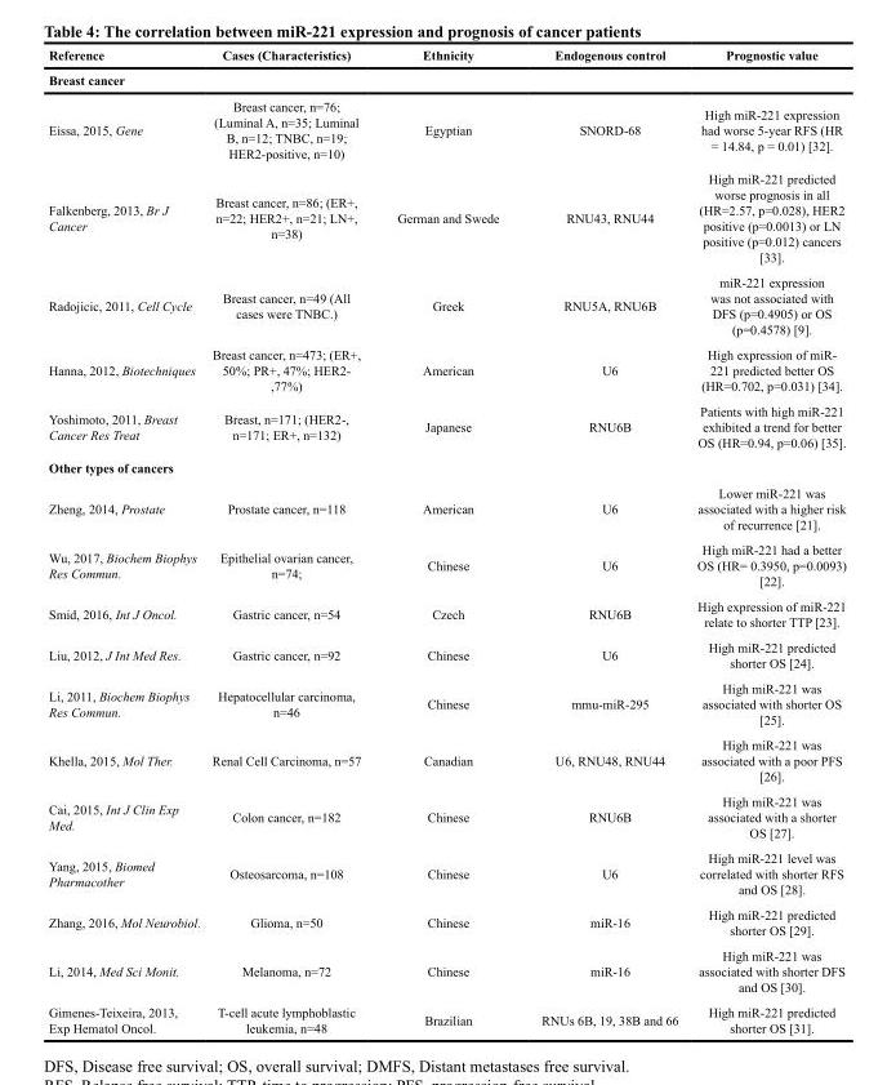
<table><thead><tr><td rowspan="2">Reference Breast cancer</td><td rowspan="2">Cases (Characteristics)</td><td rowspan="2">Ethnicity</td><td rowspan="2">Endogenous control</td><td rowspan="2">Prognostic value</td></tr><tr></tr></thead><tbody><tr><td>Eissa, 2015, Gene</td><td>Breast cancer, n=76; (Luminal A, n=35; Luminal B, n=12; TNBC, n=19; HER2-positive, n=10)</td><td>Egyptian</td><td>SNORD-68</td><td>High miR-221 expression had worse 5-year RFS (HR = 14.84, p = 0.01) [32].</td></tr><tr><td>Falkenberg, 2013, Br J Cancer</td><td>Breast cancer, n=86; (ER+, n=22; HER2+, n=21; LN+, n=38)</td><td>German and Swede</td><td>RNU43, RNU44</td><td>High miR-221 predicted worse prognosis in all (HR=2.57, p=0.028), HER2 positive (p=0.0013) or LN positive (p=0.012) cancers [33].</td></tr><tr><td>Radojicic, 2011, Cell Cycle</td><td>Breast cancer, n=49 (All cases were TNBC.)</td><td>Greek</td><td>RNU5A, RNU6B</td><td>miR-221 expression was not associated with DFS (p=0.4905) or OS (p=0.4578) [9].</td></tr><tr><td>Hanna, 2012, Biotechniques</td><td>Breast cancer, n=473; (ER+, 50%; PR+, 47%; HER2- ,77%)</td><td>American</td><td>U6</td><td>High expression of miR- 221 predicted better OS (HR=0.702, p=0.031) [34].</td></tr><tr><td>Yoshimoto, 2011, Breast Cancer Res Treat</td><td>Breast, n=171; (HER2-, n=171; ER+, n=132)</td><td>Japanese</td><td>RNU6B</td><td>Patients with high miR-221 exhibited a trend for better OS (HR=0.94, p=0.06) [35].</td></tr><tr><td colspan="5">Other types of cancers</td></tr><tr><td>Zheng, 2014, Prostate</td><td>Prostate cancer, n=118</td><td>American</td><td>U6</td><td>Lower miR-221 was associated with a higher risk of recurrence [21].</td></tr><tr><td>Wu, 2017, Biochem Biophys Res Commun.</td><td>Epithelial ovarian cancer, n=74;</td><td>Chinese</td><td>U6</td><td>High miR-221 had a better OS (HR= 0.3950, p=0.0093) [22].</td></tr><tr><td>Smid, 2016, Int J Oncol.</td><td>Gastric cancer, n=54</td><td>Czech</td><td>RNU6B</td><td>High expression of miR-221 relate to shorter TTP [23].</td></tr><tr><td>Liu, 2012, J Int Med Res.</td><td>Gastric cancer, n=92</td><td>Chinese</td><td>U6</td><td>High miR-221 predicted shorter OS [24].</td></tr><tr><td>Li, 2011, Biochem Biophys Res Commun.</td><td>Hepatocellular carcinoma, n=46</td><td>Chinese</td><td>mmu-miR-295</td><td>High miR-221 was associated with shorter OS [25].</td></tr><tr><td>Khella, 2015, Mol Ther.</td><td>Renal Cell Carcinoma, n=57</td><td>Canadian</td><td>U6, RNU48, RNU44</td><td>High miR-221 was associated with a poor PFS [26].</td></tr><tr><td>Cai, 2015, Int J Clin Exp Med.</td><td>Colon cancer, n=182</td><td>Chinese</td><td>RNU6B</td><td>High miR-221 was associated with a shorter OS [27].</td></tr><tr><td>Yang, 2015, Biomed Pharmacother</td><td>Osteosarcoma, n=108</td><td>Chinese</td><td>U6</td><td>High miR-221 level was correlated with shorter RFS and OS [28].</td></tr><tr><td>Zhang, 2016, Mol Neurobiol.</td><td>Glioma, n=50</td><td>Chinese</td><td>miR-16</td><td>High miR-221 predicted shorter OS [29].</td></tr><tr><td>Li, 2014, Med Sci Monit.</td><td>Melanoma, n=72</td><td>Chinese</td><td>miR-16</td><td>High miR-221 was associated with shorter DFS and OS [30].</td></tr><tr><td>Gimenes-Teixeira, 2013, Exp Hematol Oncol.</td><td>T-cell acute lymphoblastic leukemia, n=48</td><td>Brazilian</td><td>RNUs 6B, 19, 38B and 66</td><td>High miR-221 predicted shorter OS [31].</td></tr></tbody></table>